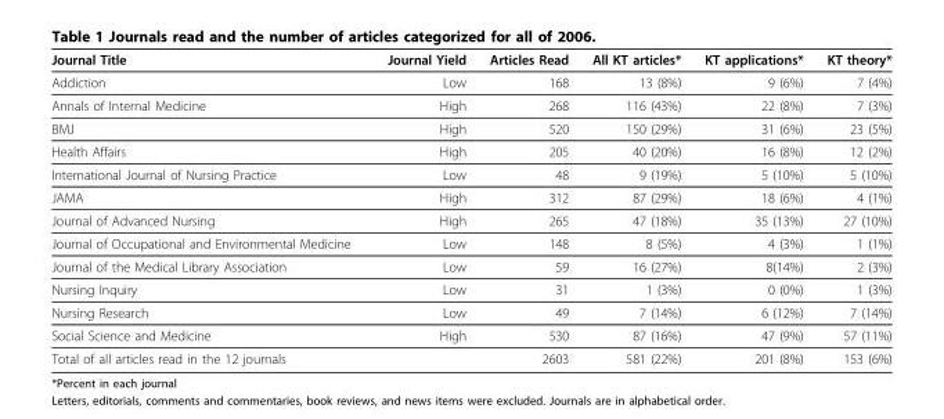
<table><thead><tr><td>Journal Title</td><td>Journal Yield</td><td>Articles Read</td><td>All KT articles*</td><td>KT applications*</td><td>KT theory*</td></tr></thead><tbody><tr><td>Addiction</td><td>Low</td><td>168</td><td>13 (8%)</td><td>9 (6%)</td><td>7 (4%)</td></tr><tr><td>Annals of Internal Medicine</td><td>High</td><td>268</td><td>116 (43%)</td><td>22 (8%)</td><td>7 (3%)</td></tr><tr><td>BMJ</td><td>High</td><td>520</td><td>150 (29%)</td><td>31 (6%)</td><td>23 (5%)</td></tr><tr><td>Health Affairs</td><td>High</td><td>205</td><td>40 (20%)</td><td>16 (8%)</td><td>12 (2%)</td></tr><tr><td>International Journal of Nursing Practice</td><td>Low</td><td>48</td><td>9 (19%)</td><td>5 (10%)</td><td>5 (10%)</td></tr><tr><td>JAMA</td><td>High</td><td>312</td><td>87 (29%)</td><td>18 (6%)</td><td>4 (1%)</td></tr><tr><td>Journal of Advanced Nursing</td><td>High</td><td>265</td><td>47 (18%)</td><td>35 (13%)</td><td>27 (10%)</td></tr><tr><td>Journal of Occupational and Environmental Medicine</td><td>Low</td><td>148</td><td>8 (5%)</td><td>4 (3%)</td><td>1 (1%)</td></tr><tr><td>Journal of the Medical Library Association</td><td>Low</td><td>59</td><td>16 (27%)</td><td>8(14%)</td><td>2 (3%)</td></tr><tr><td>Nursing Inquiry</td><td>Low</td><td>31</td><td>1 (3%)</td><td>0 (0%)</td><td>1 (3%)</td></tr><tr><td>Nursing Research</td><td>Low</td><td>49</td><td>7 (14%)</td><td>6 (12%)</td><td>7 (14%)</td></tr><tr><td>Social Science and Medicine</td><td>High</td><td>530</td><td>87 (16%)</td><td>47 (9%)</td><td>57 (11%)</td></tr><tr><td>Total of all articles read in the 12 journals</td><td></td><td>2603</td><td>581 (22%)</td><td>201 (8%)</td><td>153 (6%)</td></tr></tbody></table>